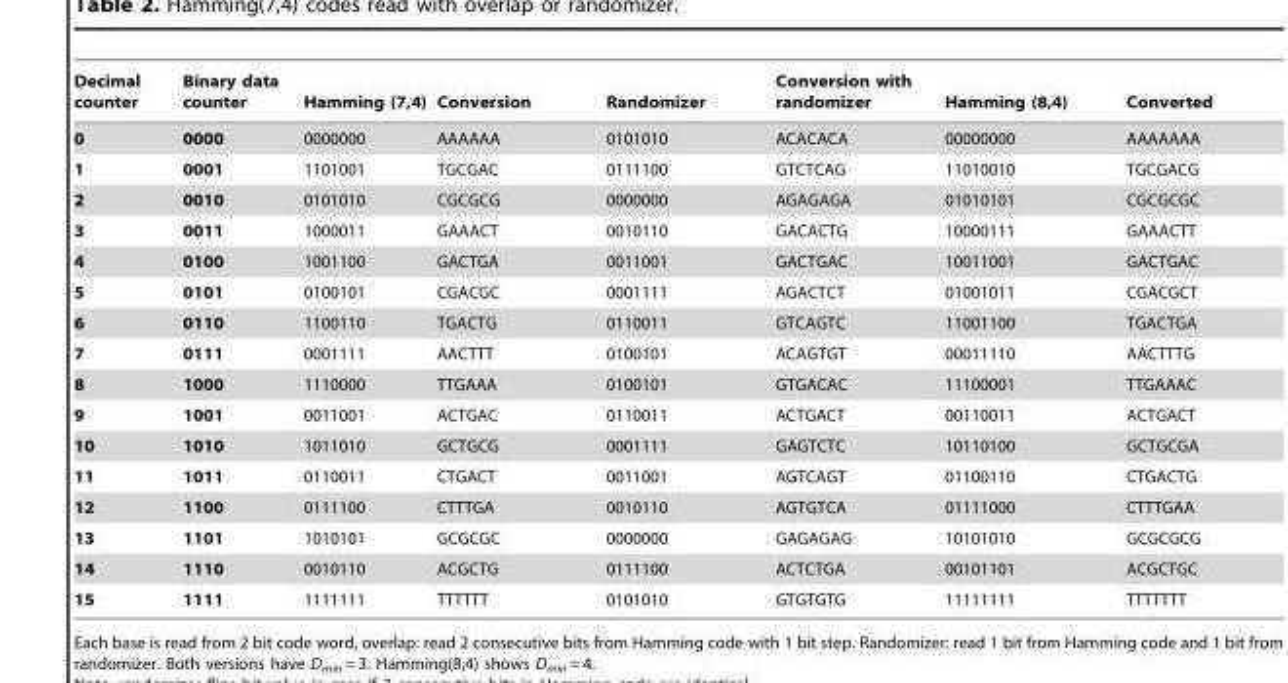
<table><thead><tr><td>Decimal counter</td><td>Binary data counter</td><td>Hamming (7,4)</td><td>Conversion</td><td>Randomizer</td><td>Conversion with randomizer</td><td>Hamming (8,4)</td><td>Converted</td></tr></thead><tbody><tr><td>0</td><td>0000</td><td>0000000</td><td>AAAAAA</td><td>0101010</td><td>ACACACA</td><td>00000000</td><td>AAAAAAA</td></tr><tr><td>1</td><td>0001</td><td>1101001</td><td>TGCGAC</td><td>0111100</td><td>GTCTCAG</td><td>11010010</td><td>TGCGACG</td></tr><tr><td>2</td><td>0010</td><td>0101010</td><td>CGCGCG</td><td>0000000</td><td>AGAGAGA</td><td>01010101</td><td>CGCGCGC</td></tr><tr><td>3</td><td>0011</td><td>1000011</td><td>GAAACT</td><td>0010110</td><td>GACACTG</td><td>10000111</td><td>GAAACTT</td></tr><tr><td>4</td><td>0100</td><td>1001100</td><td>GACTGA</td><td>0011001</td><td>GACTGAC</td><td>10011001</td><td>GACTGAC</td></tr><tr><td>5</td><td>0101</td><td>0100101</td><td>CGACGC</td><td>0001111</td><td>AGACTCT</td><td>01001011</td><td>CGACGCT</td></tr><tr><td>6</td><td>0110</td><td>1100110</td><td>TGACTG</td><td>0110011</td><td>GTCAGTC</td><td>11001100</td><td>TGACTGA</td></tr><tr><td>7</td><td>0111</td><td>0001111</td><td>AACTTT</td><td>0100101</td><td>ACAGTGT</td><td>00011110</td><td>AACTTTG</td></tr><tr><td>8</td><td>1000</td><td>1110000</td><td>TTGAAA</td><td>0100101</td><td>GTGACAC</td><td>11100001</td><td>TTGAAAC</td></tr><tr><td>9</td><td>1001</td><td>0011001</td><td>ACTGAC</td><td>0110011</td><td>ACTGACT</td><td>00110011</td><td>ACTGACT</td></tr><tr><td>10</td><td>1010</td><td>1011010</td><td>GCTGCG</td><td>0001111</td><td>GAGTCTC</td><td>10110100</td><td>GCTGCGA</td></tr><tr><td>11</td><td>1011</td><td>0110011</td><td>CTGACT</td><td>0011001</td><td>AGTCAGT</td><td>01100110</td><td>CTGACTG</td></tr><tr><td>12</td><td>1100</td><td>0111100</td><td>CTTTGA</td><td>0010110</td><td>AGTGTCA</td><td>01111000</td><td>CTTTGAA</td></tr><tr><td>13</td><td>1101</td><td>1010101</td><td>GCGCGC</td><td>0000000</td><td>GAGAGAG</td><td>10101010</td><td>GCGCGCG</td></tr><tr><td>14</td><td>1110</td><td>0010110</td><td>ACGCTG</td><td>0111100</td><td>ACTCTGA</td><td>00101101</td><td>ACGCTGC</td></tr><tr><td>15</td><td>1111</td><td>1111111</td><td>TTTTTT</td><td>0101010</td><td>GTGTGTG</td><td>11111111</td><td>TTTTTTT</td></tr></tbody></table>